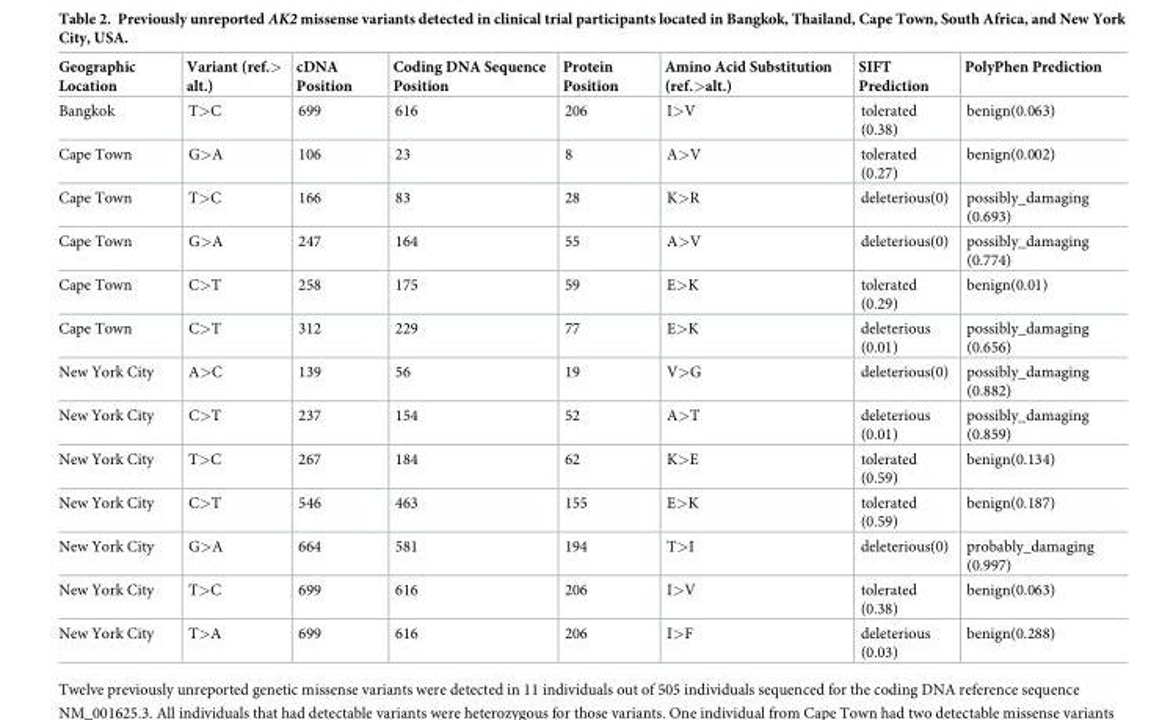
<table><thead><tr><td>Geographic Location</td><td>Variant (ref.&gt; alt.)</td><td>cDNA Position</td><td>Coding DNA Sequence Position</td><td>Protein Position</td><td>Amino Acid Substitution (ref.&gt;alt.)</td><td>SIFT Prediction</td><td>PolyPhen Prediction</td></tr></thead><tbody><tr><td>Bangkok</td><td>T&gt;C</td><td>699</td><td>616</td><td>206</td><td>I&gt;V</td><td>tolerated (0.38)</td><td>benign(0.063)</td></tr><tr><td>Cape Town</td><td>G&gt;A</td><td>106</td><td>23</td><td>8</td><td>A&gt;V</td><td>tolerated (0.27)</td><td>benign(0.002)</td></tr><tr><td>Cape Town</td><td>T&gt;C</td><td>166</td><td>83</td><td>28</td><td>K&gt;R</td><td>deleterious(0)</td><td>possibly_damaging (0.693)</td></tr><tr><td>Cape Town</td><td>G&gt;A</td><td>247</td><td>164</td><td>55</td><td>A&gt;V</td><td>deleterious(0)</td><td>possibly_damaging (0.774)</td></tr><tr><td>Cape Town</td><td>C&gt;T</td><td>258</td><td>175</td><td>59</td><td>E&gt;K</td><td>tolerated (0.29)</td><td>benign(0.01)</td></tr><tr><td>Cape Town</td><td>C&gt;T</td><td>312</td><td>229</td><td>77</td><td>E&gt;K</td><td>deleterious (0.01)</td><td>possibly_damaging (0.656)</td></tr><tr><td>New York City</td><td>A&gt;C</td><td>139</td><td>56</td><td>19</td><td>V&gt;G</td><td>deleterious(0)</td><td>possibly_damaging (0.882)</td></tr><tr><td>New York City</td><td>C&gt;T</td><td>237</td><td>154</td><td>52</td><td>A&gt;T</td><td>deleterious (0.01)</td><td>possibly_damaging (0.859)</td></tr><tr><td>New York City</td><td>T&gt;C</td><td>267</td><td>184</td><td>62</td><td>K&gt;E</td><td>tolerated (0.59)</td><td>benign(0.134)</td></tr><tr><td>New York City</td><td>C&gt;T</td><td>546</td><td>463</td><td>155</td><td>E&gt;K</td><td>tolerated (0.59)</td><td>benign(0.187)</td></tr><tr><td>New York City</td><td>G&gt;A</td><td>664</td><td>581</td><td>194</td><td>T&gt;I</td><td>deleterious(0)</td><td>probably_damaging (0.997)</td></tr><tr><td>New York City</td><td>T&gt;C</td><td>699</td><td>616</td><td>206</td><td>I&gt;V</td><td>tolerated (0.38)</td><td>benign(0.063)</td></tr><tr><td>New York City</td><td>T&gt;A</td><td>699</td><td>616</td><td>206</td><td>I&gt;F</td><td>deleterious (0.03)</td><td>benign(0.288)</td></tr></tbody></table>